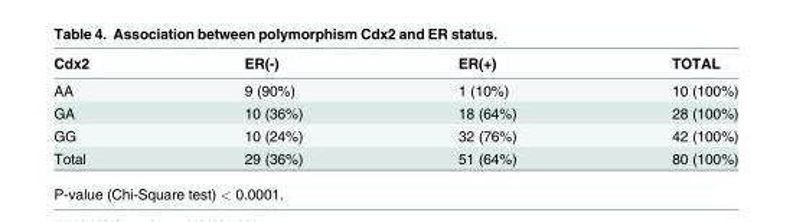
<table><thead><tr><td>Cdx2</td><td>ER(-)</td><td>ER(+)</td><td>TOTAL</td></tr></thead><tbody><tr><td>AA</td><td>9 (90%)</td><td>1 (10%)</td><td>10 (100%)</td></tr><tr><td>GA</td><td>10 (36%)</td><td>18 (64%)</td><td>28 (100%)</td></tr><tr><td>GG</td><td>10 (24%)</td><td>32 (76%)</td><td>42 (100%)</td></tr><tr><td>Total</td><td>29 (36%)</td><td>51 (64%)</td><td>80 (100%)</td></tr></tbody></table>